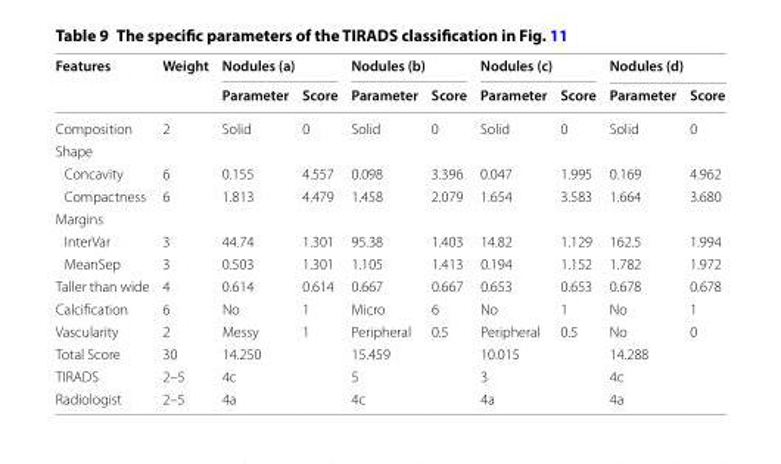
<table><thead><tr><td rowspan="2">Features</td><td rowspan="2">Weight</td><td colspan="2">Nodules (a)</td><td colspan="2">Nodules (b)</td><td colspan="2">Nodules (c)</td><td colspan="2">Nodules (d)</td></tr><tr><td>Parameter</td><td>Score</td><td>Parameter</td><td>Score</td><td>Parameter</td><td>Score</td><td>Parameter</td><td>Score</td></tr></thead><tbody><tr><td>Composition</td><td>2</td><td>Solid</td><td>0</td><td>Solid</td><td>0</td><td>Solid</td><td>0</td><td>Solid</td><td>0</td></tr><tr><td colspan="10">Shape</td></tr><tr><td>Concavity</td><td>6</td><td>0.155</td><td>4.557</td><td>0.098</td><td>3.396</td><td>0.047</td><td>1.995</td><td>0.169</td><td>4.962</td></tr><tr><td>Compactness</td><td>6</td><td>1.813</td><td>4.479</td><td>1.458</td><td>2.079</td><td>1.654</td><td>3.583</td><td>1.664</td><td>3.680</td></tr><tr><td colspan="10">Margins</td></tr><tr><td>InterVar</td><td>3</td><td>44.74</td><td>1.301</td><td>95.38</td><td>1.403</td><td>14.82</td><td>1.129</td><td>162.5</td><td>1.994</td></tr><tr><td>MeanSep</td><td>3</td><td>0.503</td><td>1.301</td><td>1.105</td><td>1.413</td><td>0.194</td><td>1.152</td><td>1.782</td><td>1.972</td></tr><tr><td>Taller than wide</td><td>4</td><td>0.614</td><td>0.614</td><td>0.667</td><td>0.667</td><td>0.653</td><td>0.653</td><td>0.678</td><td>0.678</td></tr><tr><td>Calcification</td><td>6</td><td>No</td><td>1</td><td>Micro</td><td>6</td><td>No</td><td>1</td><td>No</td><td>1</td></tr><tr><td>Vascularity</td><td>2</td><td>Messy</td><td>1</td><td>Peripheral</td><td>0.5</td><td>Peripheral</td><td>0.5</td><td>No</td><td>0</td></tr><tr><td>Total Score</td><td>30</td><td colspan="2">14.250</td><td colspan="2">15.459</td><td colspan="2">10.015</td><td colspan="2">14.288</td></tr><tr><td>TIRADS</td><td>2–5</td><td colspan="2">4c</td><td colspan="2">5</td><td colspan="2">3</td><td colspan="2">4c</td></tr><tr><td>Radiologist</td><td>2–5</td><td colspan="2">4a</td><td colspan="2">4c</td><td colspan="2">4a</td><td colspan="2">4a</td></tr></tbody></table>